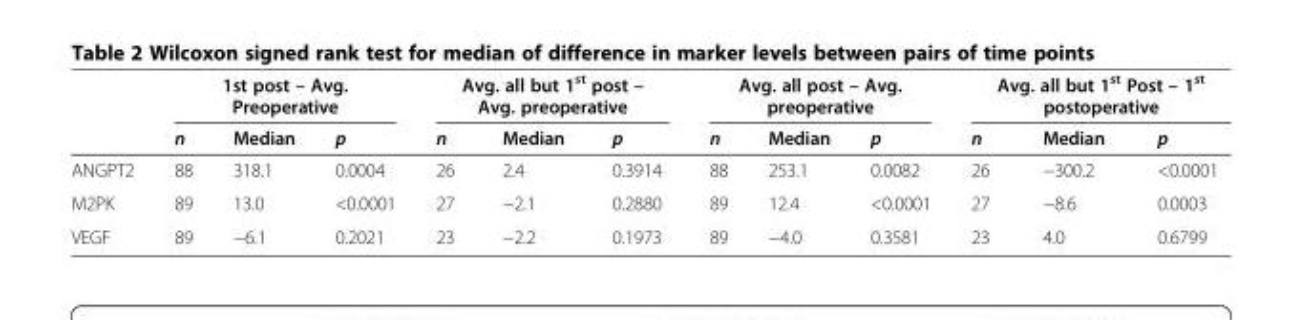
<table><thead><tr><td rowspan="2"></td><td colspan="3">1st post – Avg. Preoperative</td><td colspan="3">Avg. all but 1<sup>st</sup> post – Avg. preoperative</td><td colspan="3">Avg. all post – Avg. preoperative</td><td colspan="3">Avg. all but 1<sup>st</sup> Post – 1<sup>st</sup> postoperative</td></tr><tr><td>n</td><td>Median</td><td>p</td><td>n</td><td>Median</td><td>p</td><td>n</td><td>Median</td><td>p</td><td>n</td><td>Median</td><td>p</td></tr></thead><tbody><tr><td>ANGPT2</td><td>88</td><td>318.1</td><td>0.0004</td><td>26</td><td>2.4</td><td>0.3914</td><td>88</td><td>253.1</td><td>0.0082</td><td>26</td><td>−300.2</td><td>&lt;0.0001</td></tr><tr><td>M2PK</td><td>89</td><td>13.0</td><td>&lt;0.0001</td><td>27</td><td>−2.1</td><td>0.2880</td><td>89</td><td>12.4</td><td>&lt;0.0001</td><td>27</td><td>−8.6</td><td>0.0003</td></tr><tr><td>VEGF</td><td>89</td><td>−6.1</td><td>0.2021</td><td>23</td><td>−2.2</td><td>0.1973</td><td>89</td><td>−4.0</td><td>0.3581</td><td>23</td><td>4.0</td><td>0.6799</td></tr></tbody></table>